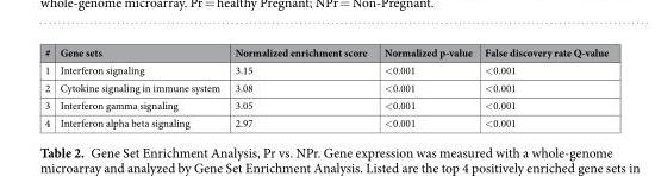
<table><thead><tr><td>#</td><td>Gene sets</td><td>Normalized enrichment score</td><td>Normalized p-value</td><td>False discovery rate Q-value</td></tr></thead><tbody><tr><td>1</td><td>Interferon signaling</td><td>3.15</td><td>&lt;0.001</td><td>&lt;0.001</td></tr><tr><td>2</td><td>Cytokine signaling in immune system</td><td>3.08</td><td>&lt;0.001</td><td>&lt;0.001</td></tr><tr><td>3</td><td>Interferon gamma signaling</td><td>3.05</td><td>&lt;0.001</td><td>&lt;0.001</td></tr><tr><td>4</td><td>Interferon alpha beta signaling</td><td>2.97</td><td>&lt;0.001</td><td>&lt;0.001</td></tr></tbody></table>